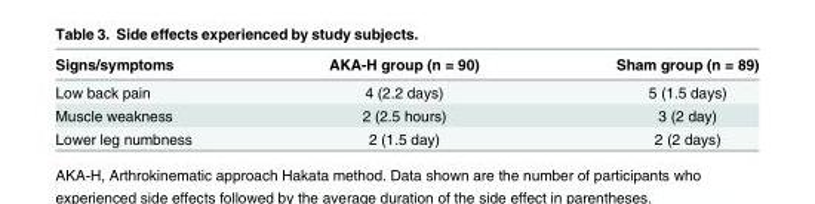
<table><thead><tr><td>Signs/symptoms</td><td>AKA-H group (n = 90)</td><td>Sham group (n = 89)</td></tr></thead><tbody><tr><td>Low back pain</td><td>4 (2.2 days)</td><td>5 (1.5 days)</td></tr><tr><td>Muscle weakness</td><td>2 (2.5 hours)</td><td>3 (2 day)</td></tr><tr><td>Lower leg numbness</td><td>2 (1.5 day)</td><td>2 (2 days)</td></tr></tbody></table>